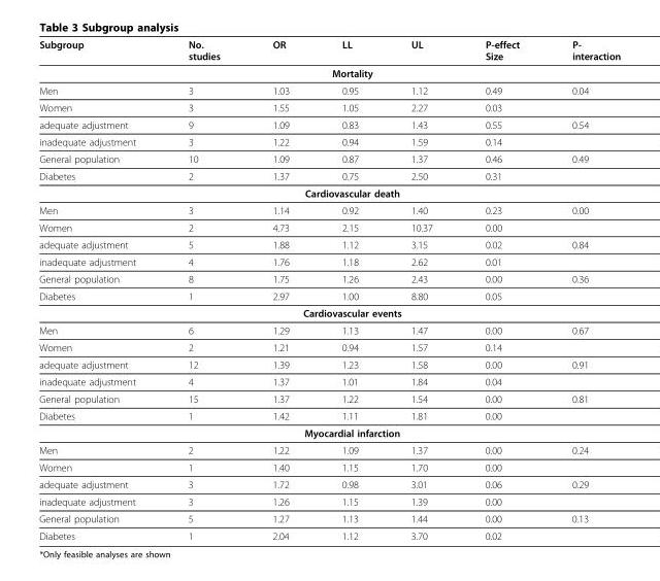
<table><thead><tr><td>Subgroup</td><td>No. studies</td><td>OR</td><td>LL</td><td>UL</td><td>P-effect Size</td><td>P- interaction</td></tr></thead><tbody><tr><td colspan="7">Mortality</td></tr><tr><td>Men</td><td>3</td><td>1.03</td><td>0.95</td><td>1.12</td><td>0.49</td><td>0.04</td></tr><tr><td>Women</td><td>3</td><td>1.55</td><td>1.05</td><td>2.27</td><td>0.03</td><td></td></tr><tr><td>adequate adjustment</td><td>9</td><td>1.09</td><td>0.83</td><td>1.43</td><td>0.55</td><td>0.54</td></tr><tr><td>inadequate adjustment</td><td>3</td><td>1.22</td><td>0.94</td><td>1.59</td><td>0.14</td><td></td></tr><tr><td>General population</td><td>10</td><td>1.09</td><td>0.87</td><td>1.37</td><td>0.46</td><td>0.49</td></tr><tr><td>Diabetes</td><td>2</td><td>1.37</td><td>0.75</td><td>2.50</td><td>0.31</td><td></td></tr><tr><td colspan="7">Cardiovascular death</td></tr><tr><td>Men</td><td>3</td><td>1.14</td><td>0.92</td><td>1.40</td><td>0.23</td><td>0.00</td></tr><tr><td>Women</td><td>2</td><td>4.73</td><td>2.15</td><td>10.37</td><td>0.00</td><td></td></tr><tr><td>adequate adjustment</td><td>5</td><td>1.88</td><td>1.12</td><td>3.15</td><td>0.02</td><td>0.84</td></tr><tr><td>inadequate adjustment</td><td>4</td><td>1.76</td><td>1.18</td><td>2.62</td><td>0.01</td><td></td></tr><tr><td>General population</td><td>8</td><td>1.75</td><td>1.26</td><td>2.43</td><td>0.00</td><td>0.36</td></tr><tr><td>Diabetes</td><td>1</td><td>2.97</td><td>1.00</td><td>8.80</td><td>0.05</td><td></td></tr><tr><td colspan="7">Cardiovascular events</td></tr><tr><td>Men</td><td>6</td><td>1.29</td><td>1.13</td><td>1.47</td><td>0.00</td><td>0.67</td></tr><tr><td>Women</td><td>2</td><td>1.21</td><td>0.94</td><td>1.57</td><td>0.14</td><td></td></tr><tr><td>adequate adjustment</td><td>12</td><td>1.39</td><td>1.23</td><td>1.58</td><td>0.00</td><td>0.91</td></tr><tr><td>inadequate adjustment</td><td>4</td><td>1.37</td><td>1.01</td><td>1.84</td><td>0.04</td><td></td></tr><tr><td>General population</td><td>15</td><td>1.37</td><td>1.22</td><td>1.54</td><td>0.00</td><td>0.81</td></tr><tr><td>Diabetes</td><td>1</td><td>1.42</td><td>1.11</td><td>1.81</td><td>0.00</td><td></td></tr><tr><td colspan="7">Myocardial infarction</td></tr><tr><td>Men</td><td>2</td><td>1.22</td><td>1.09</td><td>1.37</td><td>0.00</td><td>0.24</td></tr><tr><td>Women</td><td>1</td><td>1.40</td><td>1.15</td><td>1.70</td><td>0.00</td><td></td></tr><tr><td>adequate adjustment</td><td>3</td><td>1.72</td><td>0.98</td><td>3.01</td><td>0.06</td><td>0.29</td></tr><tr><td>inadequate adjustment</td><td>3</td><td>1.26</td><td>1.15</td><td>1.39</td><td>0.00</td><td></td></tr><tr><td>General population</td><td>5</td><td>1.27</td><td>1.13</td><td>1.44</td><td>0.00</td><td>0.13</td></tr><tr><td>Diabetes</td><td>1</td><td>2.04</td><td>1.12</td><td>3.70</td><td>0.02</td><td></td></tr></tbody></table>